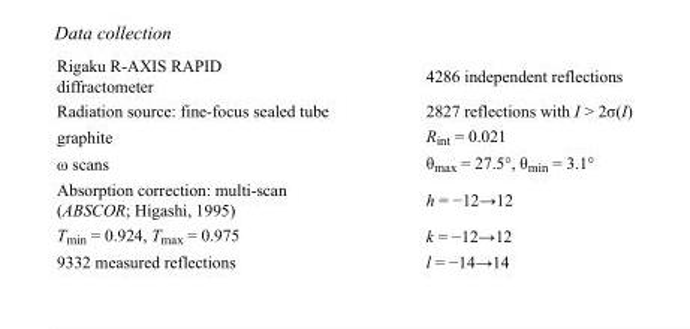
<table><tbody><tr><td>Rigaku R-AXIS RAPID diffractometer</td><td>4286 independent reflections</td></tr><tr><td>Radiation source: fine-focus sealed tube</td><td>2827 reflections with I &gt; 2σ(I)</td></tr><tr><td>graphite</td><td>R<sub>int</sub> = 0.021</td></tr><tr><td>ω scans</td><td>θ<sub>max</sub> = 27.5°, θ<sub>min</sub> = 3.1°</td></tr><tr><td>Absorption correction: multi-scan (ABSCOR; Higashi, 1995)</td><td>h = −12→12</td></tr><tr><td>T<sub>min</sub> = 0.924, T<sub>max</sub> = 0.975</td><td>k = −12→12</td></tr><tr><td>9332 measured reflections</td><td>l = −14→14</td></tr></tbody></table>